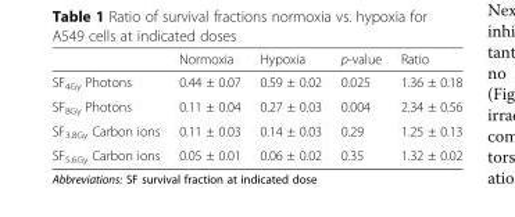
<table><thead><tr><td></td><td>Normoxia</td><td>Hypoxia</td><td>p-value</td><td>Ratio</td></tr></thead><tbody><tr><td>SF<sub>4Gy</sub> Photons</td><td>0.44 ± 0.07</td><td>0.59 ± 0.02</td><td>0.025</td><td>1.36 ± 0.18</td></tr><tr><td>SF<sub>8Gy</sub> Photons</td><td>0.11 ± 0.04</td><td>0.27 ± 0.03</td><td>0.004</td><td>2.34 ± 0.56</td></tr><tr><td>SF<sub>3.8Gy</sub> Carbon ions</td><td>0.11 ± 0.03</td><td>0.14 ± 0.03</td><td>0.29</td><td>1.25 ± 0.13</td></tr><tr><td>SF<sub>5.6Gy</sub> Carbon ions</td><td>0.05 ± 0.01</td><td>0.06 ± 0.02</td><td>0.35</td><td>1.32 ± 0.02</td></tr></tbody></table>